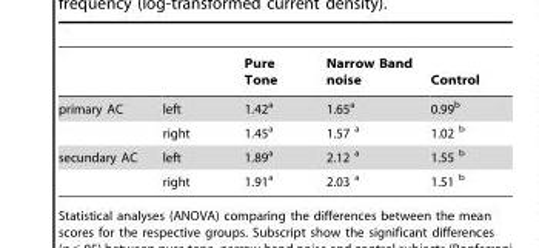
<table><thead><tr><td></td><td></td><td>Pure Tone</td><td>Narrow Band noise</td><td>Control</td></tr></thead><tbody><tr><td rowspan="2">primary AC</td><td>left</td><td>1.42<sup>a</sup></td><td>1.65<sup>a</sup></td><td>0.99<sup>b</sup></td></tr><tr><td>right</td><td>1.45<sup>a</sup></td><td>1.57 <sup>a</sup></td><td>1.02 <sup>b</sup></td></tr><tr><td rowspan="2">secundary AC</td><td>left</td><td>1.89<sup>a</sup></td><td>2.12 <sup>a</sup></td><td>1.55 <sup>b</sup></td></tr><tr><td>right</td><td>1.91<sup>a</sup></td><td>2.03 <sup>a</sup></td><td>1.51 <sup>b</sup></td></tr></tbody></table>